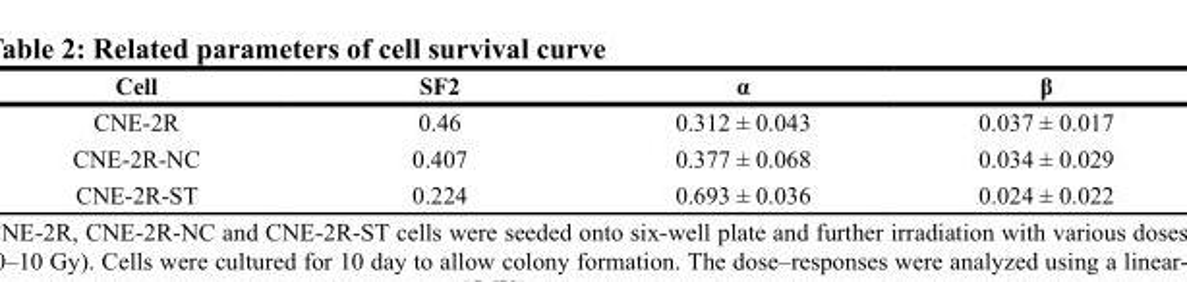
<table><thead><tr><td>Cell</td><td>SF2</td><td>α</td><td>β</td></tr></thead><tbody><tr><td>CNE-2R</td><td>0.46</td><td>0.312 ± 0.043</td><td>0.037 ± 0.017</td></tr><tr><td>CNE-2R-NC</td><td>0.407</td><td>0.377 ± 0.068</td><td>0.034 ± 0.029</td></tr><tr><td>CNE-2R-ST</td><td>0.224</td><td>0.693 ± 0.036</td><td>0.024 ± 0.022</td></tr></tbody></table>